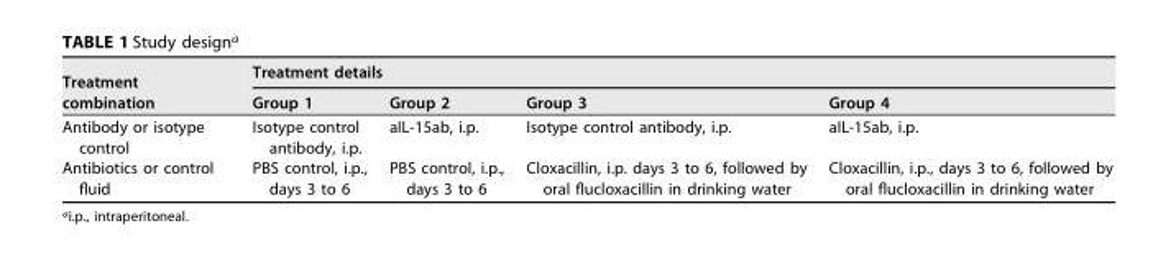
<table><thead><tr><td rowspan="2">Treatment combination</td><td colspan="4">Treatment details</td></tr><tr><td>Group 1</td><td>Group 2</td><td>Group 3</td><td>Group 4</td></tr></thead><tbody><tr><td>Antibody or isotype control</td><td>Isotype control antibody, i.p.</td><td>aIL-15ab, i.p.</td><td>Isotype control antibody, i.p.</td><td>aIL-15ab, i.p.</td></tr><tr><td>Antibiotics or control fluid</td><td>PBS control, i.p., days 3 to 6</td><td>PBS control, i.p., days 3 to 6</td><td>Cloxacillin, i.p. days 3 to 6, followed by oral flucloxacillin in drinking water</td><td>Cloxacillin, i.p., days 3 to 6, followed by oral flucloxacillin in drinking water</td></tr></tbody></table>